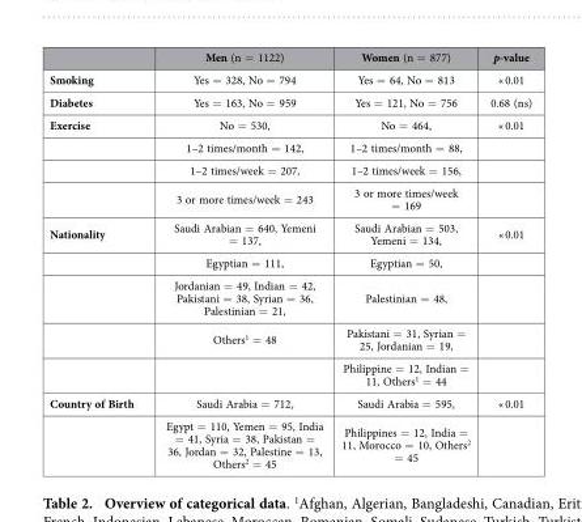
<table><thead><tr><td></td><td>Men (n = 1122)</td><td>Women (n = 877)</td><td>p-value</td></tr></thead><tbody><tr><td>Smoking</td><td>Yes = 328, No = 794</td><td>Yes = 64, No = 813</td><td>« 0.01</td></tr><tr><td>Diabetes</td><td>Yes = 163, No = 959</td><td>Yes = 121, No = 756</td><td>0.68 (ns)</td></tr><tr><td rowspan="4">Exercise</td><td>No = 530,</td><td>No = 464,</td><td>« 0.01</td></tr><tr><td>1–2 times/month = 142,</td><td>1–2 times/month = 88,</td><td></td></tr><tr><td>1–2 times/week = 207,</td><td>1–2 times/week = 156,</td><td></td></tr><tr><td>3 or more times/week = 243</td><td>3 or more times/week = 169</td><td></td></tr><tr><td rowspan="5">Nationality</td><td>Saudi Arabian = 640, Yemeni = 137,</td><td>Saudi Arabian = 503, Yemeni = 134,</td><td>« 0.01</td></tr><tr><td>Egyptian = 111,</td><td>Egyptian = 50,</td><td></td></tr><tr><td>Jordanian = 49, Indian = 42, Pakistani = 38, Syrian = 36, Palestinian = 21,</td><td>Palestinian = 48,</td><td></td></tr><tr><td>Others<sup>1</sup> = 48</td><td>Pakistani = 31, Syrian = 25, Jordanian = 19,</td><td></td></tr><tr><td></td><td>Philippine = 12, Indian = 11, Others<sup>1</sup> = 44</td><td></td></tr><tr><td rowspan="2">Country of Birth</td><td>Saudi Arabia = 712,</td><td>Saudi Arabia = 595,</td><td>« 0.01</td></tr><tr><td>Egypt = 110, Yemen = 95, India = 41, Syria = 38, Pakistan = 36, Jordan = 32, Palestine = 13, Others<sup>2</sup> = 45</td><td>Philippines = 12, India = 11, Morocco = 10, Others<sup>2</sup> = 45</td><td></td></tr></tbody></table>